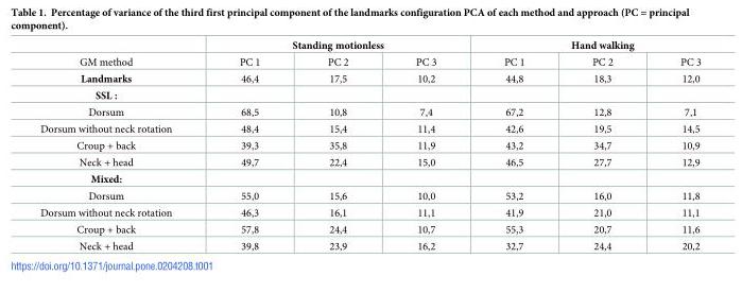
<table><thead><tr><td rowspan="2">GM method</td><td colspan="3">Standing motionless</td><td colspan="3">Hand walking</td></tr><tr><td>PC 1</td><td>PC 2</td><td>PC 3</td><td>PC 1</td><td>PC 2</td><td>PC 3</td></tr></thead><tbody><tr><td>Landmarks</td><td>46,4</td><td>17,5</td><td>10,2</td><td>44,8</td><td>18,3</td><td>12,0</td></tr><tr><td colspan="7">SSL :</td></tr><tr><td>Dorsum</td><td>68,5</td><td>10,8</td><td>7,4</td><td>67,2</td><td>12,8</td><td>7,1</td></tr><tr><td>Dorsum without neck rotation</td><td>48,4</td><td>15,4</td><td>11,4</td><td>42,6</td><td>19,5</td><td>14,5</td></tr><tr><td>Croup + back</td><td>39,3</td><td>35,8</td><td>11,9</td><td>43,2</td><td>34,7</td><td>10,9</td></tr><tr><td>Neck + head</td><td>49,7</td><td>22,4</td><td>15,0</td><td>46,5</td><td>27,7</td><td>12,9</td></tr><tr><td colspan="7">Mixed:</td></tr><tr><td>Dorsum</td><td>55,0</td><td>15,6</td><td>10,0</td><td>53,2</td><td>16,0</td><td>11,8</td></tr><tr><td>Dorsum without neck rotation</td><td>46,3</td><td>16,1</td><td>11,1</td><td>41,9</td><td>21,0</td><td>11,1</td></tr><tr><td>Croup + back</td><td>57,8</td><td>24,4</td><td>10,7</td><td>55,3</td><td>20,7</td><td>11,6</td></tr><tr><td>Neck + head</td><td>39,8</td><td>23,9</td><td>16,2</td><td>32,7</td><td>24,4</td><td>20,2</td></tr></tbody></table>